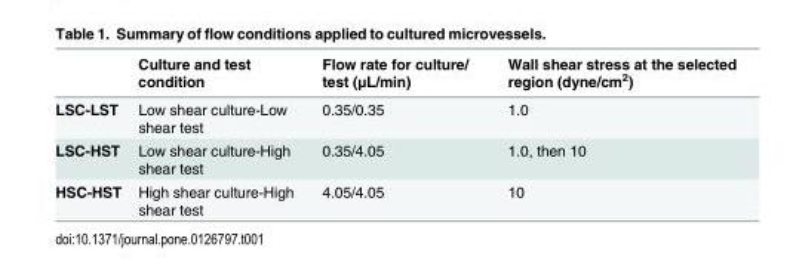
<table><thead><tr><td></td><td>Culture and test condition</td><td>Flow rate for culture/ test (μL/min)</td><td>Wall shear stress at the selected region (dyne/cm<sup>2</sup>)</td></tr></thead><tbody><tr><td>LSC-LST</td><td>Low shear culture-Low shear test</td><td>0.35/0.35</td><td>1.0</td></tr><tr><td>LSC-HST</td><td>Low shear culture-High shear test</td><td>0.35/4.05</td><td>1.0, then 10</td></tr><tr><td>HSC-HST</td><td>High shear culture-High shear test</td><td>4.05/4.05</td><td>10</td></tr></tbody></table>